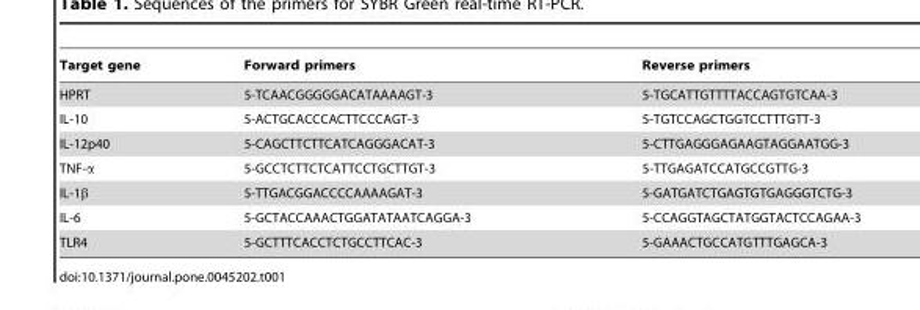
<table><thead><tr><td>Target gene</td><td>Forward primers</td><td>Reverse primers</td></tr></thead><tbody><tr><td>HPRT</td><td>5-TCAACGGGGGACATAAAAGT-3</td><td>5-TGCATTGTTTTACCAGTGTCAA-3</td></tr><tr><td>IL-10</td><td>5-ACTGCACCCACTTCCCAGT-3</td><td>5-TGTCCAGCTGGTCCTTTGTT-3</td></tr><tr><td>IL-12p40</td><td>5-CAGCTTCTTCATCAGGGACAT-3</td><td>5-CTTGAGGGAGAAGTAGGAATGG-3</td></tr><tr><td>TNF-α</td><td>5-GCCTCTTCTCATTCCTGCTTGT-3</td><td>5-TTGAGATCCATGCCGTTG-3</td></tr><tr><td>IL-1β</td><td>5-TTGACGGACCCCAAAAGAT-3</td><td>5-GATGATCTGAGTGTGAGGGTCTG-3</td></tr><tr><td>IL-6</td><td>5-GCTACCAAACTGGATATAATCAGGA-3</td><td>5-CCAGGTAGCTATGGTACTCCAGAA-3</td></tr><tr><td>TLR4</td><td>5-GCTTTCACCTCTGCCTTCAC-3</td><td>5-GAAACTGCCATGTTTGAGCA-3</td></tr></tbody></table>